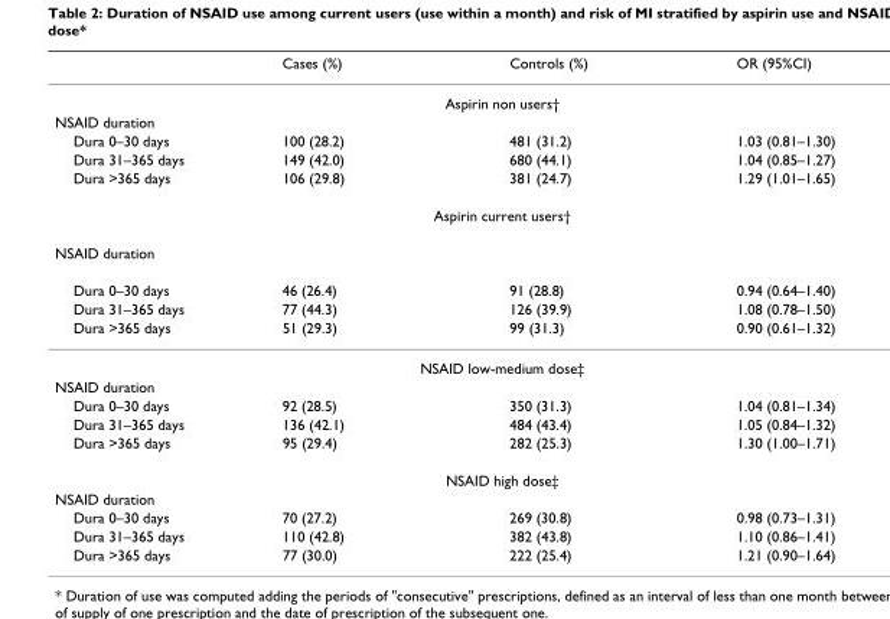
<table><thead><tr><td></td><td>Cases (%)</td><td>Controls (%)</td><td>OR (95%CI)</td></tr></thead><tbody><tr><td colspan="4">Aspirin non users†</td></tr><tr><td colspan="4">NSAID duration</td></tr><tr><td>Dura 0–30 days</td><td>100 (28.2)</td><td>481 (31.2)</td><td>1.03 (0.81–1.30)</td></tr><tr><td>Dura 31–365 days</td><td>149 (42.0)</td><td>680 (44.1)</td><td>1.04 (0.85–1.27)</td></tr><tr><td>Dura &gt;365 days</td><td>106 (29.8)</td><td>381 (24.7)</td><td>1.29 (1.01–1.65)</td></tr><tr><td colspan="4">Aspirin current users†</td></tr><tr><td colspan="4">NSAID duration</td></tr><tr><td>Dura 0–30 days</td><td>46 (26.4)</td><td>91 (28.8)</td><td>0.94 (0.64–1.40)</td></tr><tr><td>Dura 31–365 days</td><td>77 (44.3)</td><td>126 (39.9)</td><td>1.08 (0.78–1.50)</td></tr><tr><td>Dura &gt;365 days</td><td>51 (29.3)</td><td>99 (31.3)</td><td>0.90 (0.61–1.32)</td></tr><tr><td colspan="4">NSAID low-medium dose‡</td></tr><tr><td colspan="4">NSAID duration</td></tr><tr><td>Dura 0–30 days</td><td>92 (28.5)</td><td>350 (31.3)</td><td>1.04 (0.81–1.34)</td></tr><tr><td>Dura 31–365 days</td><td>136 (42.1)</td><td>484 (43.4)</td><td>1.05 (0.84–1.32)</td></tr><tr><td>Dura &gt;365 days</td><td>95 (29.4)</td><td>282 (25.3)</td><td>1.30 (1.00–1.71)</td></tr><tr><td colspan="4">NSAID high dose‡</td></tr><tr><td colspan="4">NSAID duration</td></tr><tr><td>Dura 0–30 days</td><td>70 (27.2)</td><td>269 (30.8)</td><td>0.98 (0.73–1.31)</td></tr><tr><td>Dura 31–365 days</td><td>110 (42.8)</td><td>382 (43.8)</td><td>1.10 (0.86–1.41)</td></tr><tr><td>Dura &gt;365 days</td><td>77 (30.0)</td><td>222 (25.4)</td><td>1.21 (0.90–1.64)</td></tr></tbody></table>